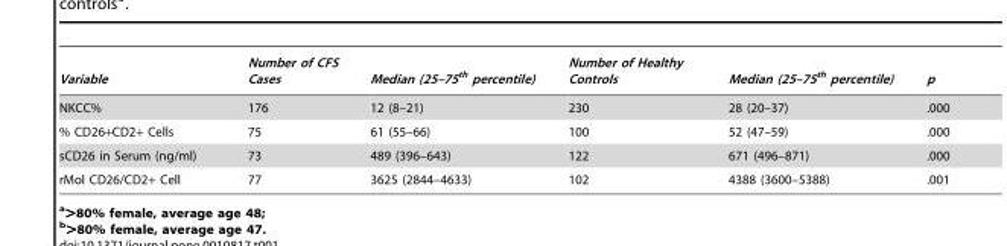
<table><thead><tr><td>Variable</td><td>Number of CFS Cases</td><td>Median (25–75<sup>th</sup> percentile)</td><td>Number of Healthy Controls</td><td>Median (25–75<sup>th</sup> percentile)</td><td>p</td></tr></thead><tbody><tr><td>NKCC%</td><td>176</td><td>12 (8–21)</td><td>230</td><td>28 (20–37)</td><td>.000</td></tr><tr><td>% CD26+CD2+ Cells</td><td>75</td><td>61 (55–66)</td><td>100</td><td>52 (47–59)</td><td>.000</td></tr><tr><td>sCD26 in Serum (ng/ml)</td><td>73</td><td>489 (396–643)</td><td>122</td><td>671 (496–871)</td><td>.000</td></tr><tr><td>rMol CD26/CD2+ Cell</td><td>77</td><td>3625 (2844–4633)</td><td>102</td><td>4388 (3600–5388)</td><td>.001</td></tr></tbody></table>